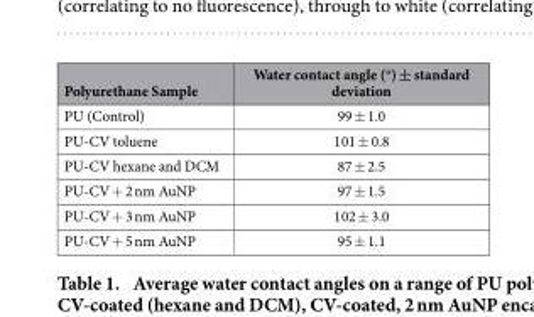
<table><thead><tr><td>Polyurethane Sample</td><td>Water contact angle (<sup>ο</sup>) ± standard deviation</td></tr></thead><tbody><tr><td>PU (Control)</td><td>99 ± 1.0</td></tr><tr><td>PU-CV toluene</td><td>101 ± 0.8</td></tr><tr><td>PU-CV hexane and DCM</td><td>87 ± 2.5</td></tr><tr><td>PU-CV + 2 nm AuNP</td><td>97 ± 1.5</td></tr><tr><td>PU-CV + 3 nm AuNP</td><td>102 ± 3.0</td></tr><tr><td>PU-CV + 5 nm AuNP</td><td>95 ± 1.1</td></tr></tbody></table>